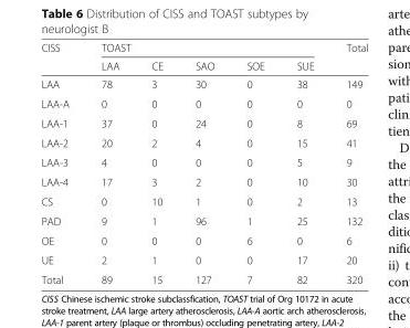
<table><thead><tr><td rowspan="2">CISS</td><td colspan="5">TOAST</td><td rowspan="2">Total</td></tr><tr><td>LAA</td><td>CE</td><td>SAO</td><td>SOE</td><td>SUE</td></tr></thead><tbody><tr><td>LAA</td><td>78</td><td>3</td><td>30</td><td>0</td><td>38</td><td>149</td></tr><tr><td>LAA-A</td><td>0</td><td>0</td><td>0</td><td>0</td><td>0</td><td>0</td></tr><tr><td>LAA-1</td><td>37</td><td>0</td><td>24</td><td>0</td><td>8</td><td>69</td></tr><tr><td>LAA-2</td><td>20</td><td>2</td><td>4</td><td>0</td><td>15</td><td>41</td></tr><tr><td>LAA-3</td><td>4</td><td>0</td><td>0</td><td>0</td><td>5</td><td>9</td></tr><tr><td>LAA-4</td><td>17</td><td>3</td><td>2</td><td>0</td><td>10</td><td>30</td></tr><tr><td>CS</td><td>0</td><td>10</td><td>1</td><td>0</td><td>2</td><td>13</td></tr><tr><td>PAD</td><td>9</td><td>1</td><td>96</td><td>1</td><td>25</td><td>132</td></tr><tr><td>OE</td><td>0</td><td>0</td><td>0</td><td>6</td><td>0</td><td>6</td></tr><tr><td>UE</td><td>2</td><td>1</td><td>0</td><td>0</td><td>17</td><td>20</td></tr><tr><td>Total</td><td>89</td><td>15</td><td>127</td><td>7</td><td>82</td><td>320</td></tr></tbody></table>